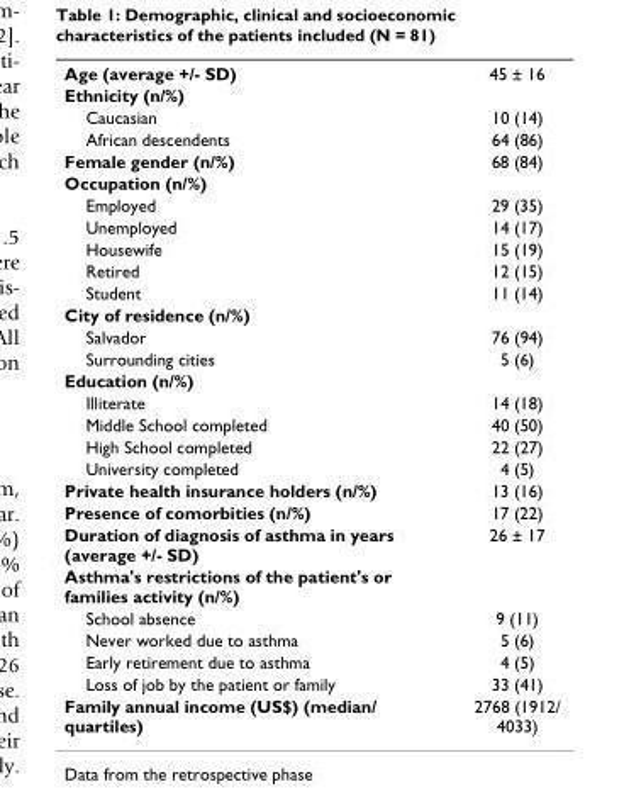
<table><tbody><tr><td>Age (average +/- SD)</td><td>45 ± 16</td></tr><tr><td colspan="2">Ethnicity (n/%)</td></tr><tr><td>Caucasian</td><td>10 (14)</td></tr><tr><td>African descendents</td><td>64 (86)</td></tr><tr><td>Female gender (n/%)</td><td>68 (84)</td></tr><tr><td colspan="2">Occupation (n/%)</td></tr><tr><td>Employed</td><td>29 (35)</td></tr><tr><td>Unemployed</td><td>14 (17)</td></tr><tr><td>Housewife</td><td>15 (19)</td></tr><tr><td>Retired</td><td>12 (15)</td></tr><tr><td>Student</td><td>11 (14)</td></tr><tr><td colspan="2">City of residence (n/%)</td></tr><tr><td>Salvador</td><td>76 (94)</td></tr><tr><td>Surrounding cities</td><td>5 (6)</td></tr><tr><td colspan="2">Education (n/%)</td></tr><tr><td>Illiterate</td><td>14 (18)</td></tr><tr><td>Middle School completed</td><td>40 (50)</td></tr><tr><td>High School completed</td><td>22 (27)</td></tr><tr><td>University completed</td><td>4 (5)</td></tr><tr><td>Private health insurance holders (n/%)</td><td>13 (16)</td></tr><tr><td>Presence of comorbities (n/%)</td><td>17 (22)</td></tr><tr><td>Duration of diagnosis of asthma in years (average +/- SD)</td><td>26 ± 17</td></tr><tr><td colspan="2">Asthma&#x27;s restrictions of the patient&#x27;s or families activity (n/%)</td></tr><tr><td>School absence</td><td>9 (11)</td></tr><tr><td>Never worked due to asthma</td><td>5 (6)</td></tr><tr><td>Early retirement due to asthma</td><td>4 (5)</td></tr><tr><td>Loss of job by the patient or family</td><td>33 (41)</td></tr><tr><td>Family annual income (US$) (median/ quartiles)</td><td>2768 (1912/ 4033)</td></tr></tbody></table>